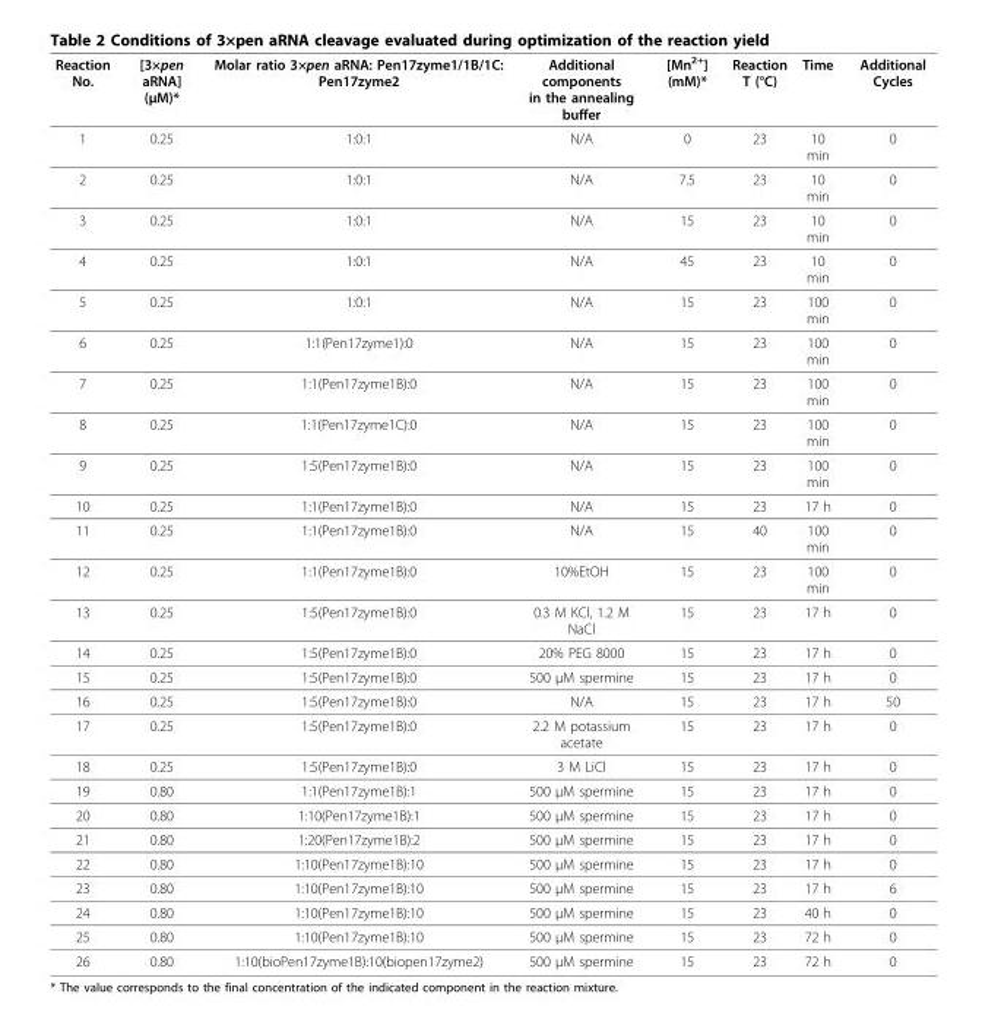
<table><thead><tr><td>Reaction No.</td><td>[3×pen aRNA] (μM)*</td><td>Molar ratio 3×pen aRNA: Pen17zyme1/1B/1C: Pen17zyme2</td><td>Additional components in the annealing buffer</td><td>[Mn<sup>2+</sup>] (mM)*</td><td>Reaction T (°C)</td><td>Time</td><td>Additional Cycles</td></tr></thead><tbody><tr><td>1</td><td>0.25</td><td>1:0:1</td><td>N/A</td><td>0</td><td>23</td><td>10 min</td><td>0</td></tr><tr><td>2</td><td>0.25</td><td>1:0:1</td><td>N/A</td><td>7.5</td><td>23</td><td>10 min</td><td>0</td></tr><tr><td>3</td><td>0.25</td><td>1:0:1</td><td>N/A</td><td>15</td><td>23</td><td>10 min</td><td>0</td></tr><tr><td>4</td><td>0.25</td><td>1:0:1</td><td>N/A</td><td>45</td><td>23</td><td>10 min</td><td>0</td></tr><tr><td>5</td><td>0.25</td><td>1:0:1</td><td>N/A</td><td>15</td><td>23</td><td>100 min</td><td>0</td></tr><tr><td>6</td><td>0.25</td><td>1:1(Pen17zyme1):0</td><td>N/A</td><td>15</td><td>23</td><td>100 min</td><td>0</td></tr><tr><td>7</td><td>0.25</td><td>1:1(Pen17zyme1B):0</td><td>N/A</td><td>15</td><td>23</td><td>100 min</td><td>0</td></tr><tr><td>8</td><td>0.25</td><td>1:1(Pen17zyme1C):0</td><td>N/A</td><td>15</td><td>23</td><td>100 min</td><td>0</td></tr><tr><td>9</td><td>0.25</td><td>1:5(Pen17zyme1B):0</td><td>N/A</td><td>15</td><td>23</td><td>100 min</td><td>0</td></tr><tr><td>10</td><td>0.25</td><td>1:1(Pen17zyme1B):0</td><td>N/A</td><td>15</td><td>23</td><td>17 h</td><td>0</td></tr><tr><td>11</td><td>0.25</td><td>1:1(Pen17zyme1B):0</td><td>N/A</td><td>15</td><td>40</td><td>100 min</td><td>0</td></tr><tr><td>12</td><td>0.25</td><td>1:1(Pen17zyme1B):0</td><td>10%EtOH</td><td>15</td><td>23</td><td>100 min</td><td>0</td></tr><tr><td>13</td><td>0.25</td><td>1:5(Pen17zyme1B):0</td><td>0.3 M KCl, 1.2 M NaCl</td><td>15</td><td>23</td><td>17 h</td><td>0</td></tr><tr><td>14</td><td>0.25</td><td>1:5(Pen17zyme1B):0</td><td>20% PEG 8000</td><td>15</td><td>23</td><td>17 h</td><td>0</td></tr><tr><td>15</td><td>0.25</td><td>1:5(Pen17zyme1B):0</td><td>500 μM spermine</td><td>15</td><td>23</td><td>17 h</td><td>0</td></tr><tr><td>16</td><td>0.25</td><td>1:5(Pen17zyme1B):0</td><td>N/A</td><td>15</td><td>23</td><td>17 h</td><td>50</td></tr><tr><td>17</td><td>0.25</td><td>1:5(Pen17zyme1B):0</td><td>2.2 M potassium acetate</td><td>15</td><td>23</td><td>17 h</td><td>0</td></tr><tr><td>18</td><td>0.25</td><td>1:5(Pen17zyme1B):0</td><td>3 M LiCl</td><td>15</td><td>23</td><td>17 h</td><td>0</td></tr><tr><td>19</td><td>0.80</td><td>1:1(Pen17zyme1B):1</td><td>500 μM spermine</td><td>15</td><td>23</td><td>17 h</td><td>0</td></tr><tr><td>20</td><td>0.80</td><td>1:10(Pen17zyme1B):1</td><td>500 μM spermine</td><td>15</td><td>23</td><td>17 h</td><td>0</td></tr><tr><td>21</td><td>0.80</td><td>1:20(Pen17zyme1B):2</td><td>500 μM spermine</td><td>15</td><td>23</td><td>17 h</td><td>0</td></tr><tr><td>22</td><td>0.80</td><td>1:10(Pen17zyme1B):10</td><td>500 μM spermine</td><td>15</td><td>23</td><td>17 h</td><td>0</td></tr><tr><td>23</td><td>0.80</td><td>1:10(Pen17zyme1B):10</td><td>500 μM spermine</td><td>15</td><td>23</td><td>17 h</td><td>6</td></tr><tr><td>24</td><td>0.80</td><td>1:10(Pen17zyme1B):10</td><td>500 μM spermine</td><td>15</td><td>23</td><td>40 h</td><td>0</td></tr><tr><td>25</td><td>0.80</td><td>1:10(Pen17zyme1B):10</td><td>500 μM spermine</td><td>15</td><td>23</td><td>72 h</td><td>0</td></tr><tr><td>26</td><td>0.80</td><td>1:10(bioPen17zyme1B):10(biopen17zyme2)</td><td>500 μM spermine</td><td>15</td><td>23</td><td>72 h</td><td>0</td></tr></tbody></table>